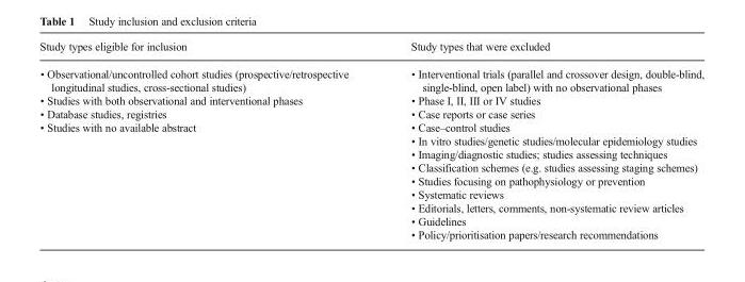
<table><thead><tr><td>Study types eligible for inclusion</td><td>Study types that were excluded</td></tr></thead><tbody><tr><td>• Observational/uncontrolled cohort studies (prospective/retrospective longitudinal studies, cross-sectional studies) • Studies with both observational and interventional phases • Database studies, registries • Studies with no available abstract</td><td>• Interventional trials (parallel and crossover design, double-blind, single-blind, open label) with no observational phases • Phase I, II, III or IV studies • Case reports or case series • Case–control studies • In vitro studies/genetic studies/molecular epidemiology studies • Imaging/diagnostic studies; studies assessing techniques • Classification schemes (e.g. studies assessing staging schemes) • Studies focusing on pathophysiology or prevention • Systematic reviews • Editorials, letters, comments, non-systematic review articles • Guidelines • Policy/prioritisation papers/research recommendations</td></tr></tbody></table>